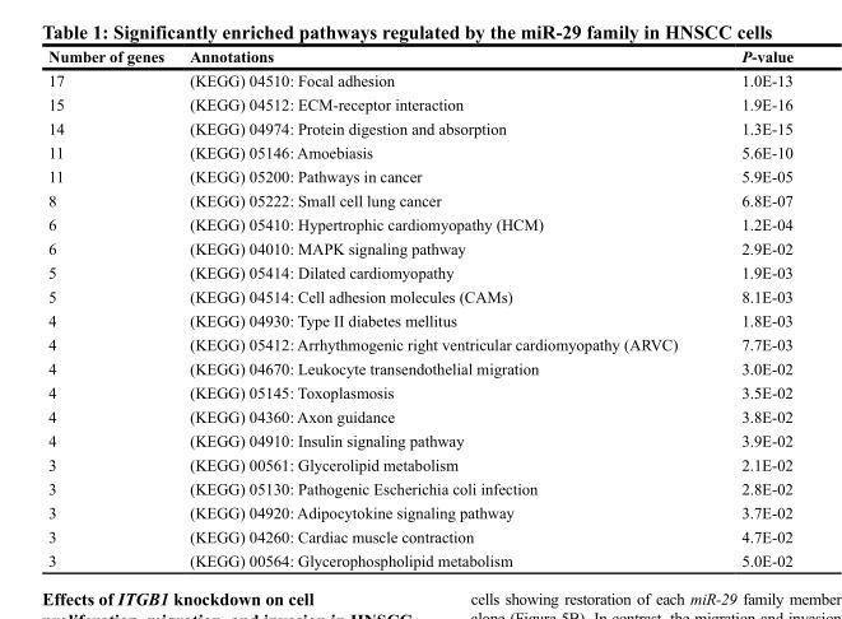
<table><thead><tr><td>Number of genes</td><td>Annotations</td><td>P-value</td></tr></thead><tbody><tr><td>17</td><td>(KEGG) 04510: Focal adhesion</td><td>1.0E-13</td></tr><tr><td>15</td><td>(KEGG) 04512: ECM-receptor interaction</td><td>1.9E-16</td></tr><tr><td>14</td><td>(KEGG) 04974: Protein digestion and absorption</td><td>1.3E-15</td></tr><tr><td>11</td><td>(KEGG) 05146: Amoebiasis</td><td>5.6E-10</td></tr><tr><td>11</td><td>(KEGG) 05200: Pathways in cancer</td><td>5.9E-05</td></tr><tr><td>8</td><td>(KEGG) 05222: Small cell lung cancer</td><td>6.8E-07</td></tr><tr><td>6</td><td>(KEGG) 05410: Hypertrophic cardiomyopathy (HCM)</td><td>1.2E-04</td></tr><tr><td>6</td><td>(KEGG) 04010: MAPK signaling pathway</td><td>2.9E-02</td></tr><tr><td>5</td><td>(KEGG) 05414: Dilated cardiomyopathy</td><td>1.9E-03</td></tr><tr><td>5</td><td>(KEGG) 04514: Cell adhesion molecules (CAMs)</td><td>8.1E-03</td></tr><tr><td>4</td><td>(KEGG) 04930: Type II diabetes mellitus</td><td>1.8E-03</td></tr><tr><td>4</td><td>(KEGG) 05412: Arrhythmogenic right ventricular cardiomyopathy (ARVC)</td><td>7.7E-03</td></tr><tr><td>4</td><td>(KEGG) 04670: Leukocyte transendothelial migration</td><td>3.0E-02</td></tr><tr><td>4</td><td>(KEGG) 05145: Toxoplasmosis</td><td>3.5E-02</td></tr><tr><td>4</td><td>(KEGG) 04360: Axon guidance</td><td>3.8E-02</td></tr><tr><td>4</td><td>(KEGG) 04910: Insulin signaling pathway</td><td>3.9E-02</td></tr><tr><td>3</td><td>(KEGG) 00561: Glycerolipid metabolism</td><td>2.1E-02</td></tr><tr><td>3</td><td>(KEGG) 05130: Pathogenic Escherichia coli infection</td><td>2.8E-02</td></tr><tr><td>3</td><td>(KEGG) 04920: Adipocytokine signaling pathway</td><td>3.7E-02</td></tr><tr><td>3</td><td>(KEGG) 04260: Cardiac muscle contraction</td><td>4.7E-02</td></tr><tr><td>3</td><td>(KEGG) 00564: Glycerophospholipid metabolism</td><td>5.0E-02</td></tr></tbody></table>